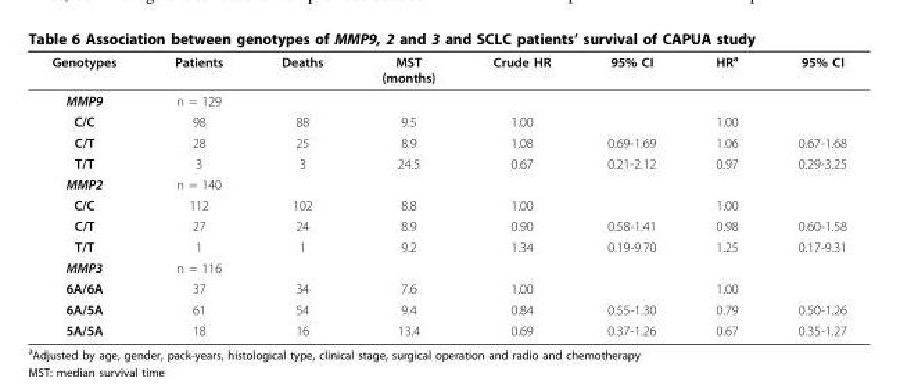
<table><thead><tr><td>Genotypes</td><td>Patients</td><td>Deaths</td><td>MST (months)</td><td>Crude HR</td><td>95% CI</td><td>HR<sup>a</sup></td><td>95% CI</td></tr></thead><tbody><tr><td>MMP9</td><td>n = 129</td><td></td><td></td><td></td><td></td><td></td><td></td></tr><tr><td>C/C</td><td>98</td><td>88</td><td>9.5</td><td>1.00</td><td></td><td>1.00</td><td></td></tr><tr><td>C/T</td><td>28</td><td>25</td><td>8.9</td><td>1.08</td><td>0.69-1.69</td><td>1.06</td><td>0.67-1.68</td></tr><tr><td>T/T</td><td>3</td><td>3</td><td>24.5</td><td>0.67</td><td>0.21-2.12</td><td>0.97</td><td>0.29-3.25</td></tr><tr><td>MMP2</td><td>n = 140</td><td></td><td></td><td></td><td></td><td></td><td></td></tr><tr><td>C/C</td><td>112</td><td>102</td><td>8.8</td><td>1.00</td><td></td><td>1.00</td><td></td></tr><tr><td>C/T</td><td>27</td><td>24</td><td>8.9</td><td>0.90</td><td>0.58-1.41</td><td>0.98</td><td>0.60-1.58</td></tr><tr><td>T/T</td><td>1</td><td>1</td><td>9.2</td><td>1.34</td><td>0.19-9.70</td><td>1.25</td><td>0.17-9.31</td></tr><tr><td>MMP3</td><td>n = 116</td><td></td><td></td><td></td><td></td><td></td><td></td></tr><tr><td>6A/6A</td><td>37</td><td>34</td><td>7.6</td><td>1.00</td><td></td><td>1.00</td><td></td></tr><tr><td>6A/5A</td><td>61</td><td>54</td><td>9.4</td><td>0.84</td><td>0.55-1.30</td><td>0.79</td><td>0.50-1.26</td></tr><tr><td>5A/5A</td><td>18</td><td>16</td><td>13.4</td><td>0.69</td><td>0.37-1.26</td><td>0.67</td><td>0.35-1.27</td></tr></tbody></table>